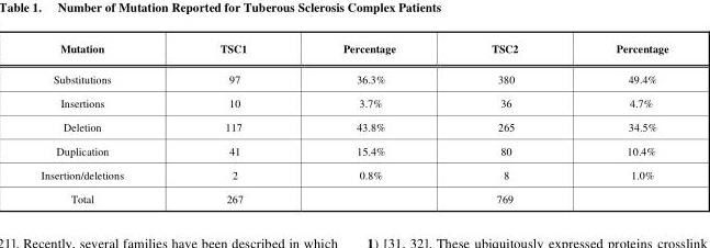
<table><thead><tr><td>Mutation</td><td>TSC1</td><td>Percentage</td><td>TSC2</td><td>Percentage</td></tr></thead><tbody><tr><td>Substitutions</td><td>97</td><td>36.3%</td><td>380</td><td>49.4%</td></tr><tr><td>Insertions</td><td>10</td><td>3.7%</td><td>36</td><td>4.7%</td></tr><tr><td>Deletion</td><td>117</td><td>43.8%</td><td>265</td><td>34.5%</td></tr><tr><td>Duplication</td><td>41</td><td>15.4%</td><td>80</td><td>10.4%</td></tr><tr><td>Insertion/deletions</td><td>2</td><td>0.8%</td><td>8</td><td>1.0%</td></tr><tr><td>Total</td><td>267</td><td></td><td>769</td><td></td></tr></tbody></table>